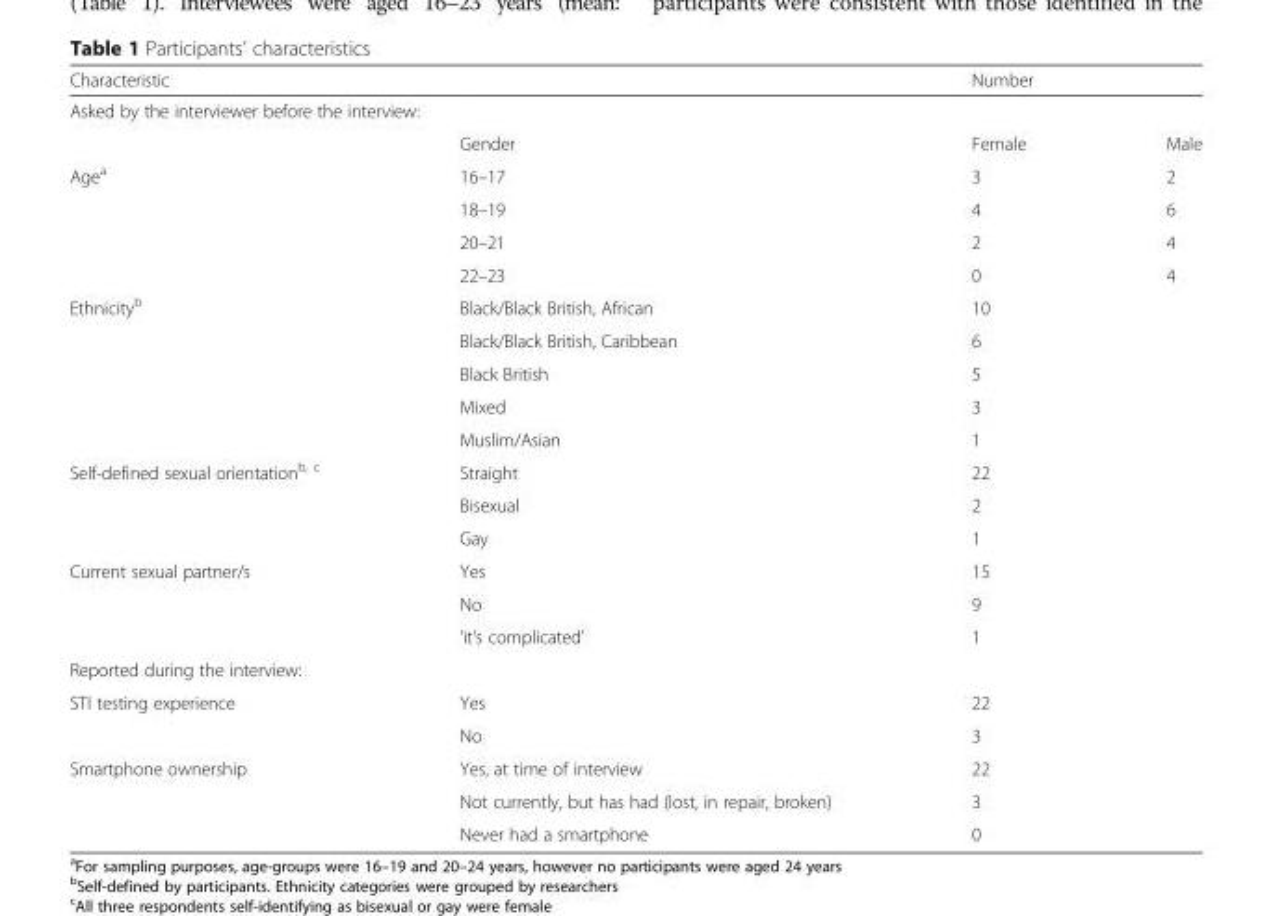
<table><thead><tr><td>Characteristic</td><td></td><td colspan="2">Number</td></tr><tr><td colspan="4">Asked by the interviewer before the interview:</td></tr><tr><td></td><td>Gender</td><td>Female</td><td>Male</td></tr></thead><tbody><tr><td rowspan="4">Age<sup>a</sup></td><td>16–17</td><td>3</td><td>2</td></tr><tr><td>18–19</td><td>4</td><td>6</td></tr><tr><td>20–21</td><td>2</td><td>4</td></tr><tr><td>22–23</td><td>0</td><td>4</td></tr><tr><td rowspan="5">Ethnicity<sup>b</sup></td><td>Black/Black British, African</td><td colspan="2">10</td></tr><tr><td>Black/Black British, Caribbean</td><td colspan="2">6</td></tr><tr><td>Black British</td><td colspan="2">5</td></tr><tr><td>Mixed</td><td colspan="2">3</td></tr><tr><td>Muslim/Asian</td><td colspan="2">1</td></tr><tr><td rowspan="3">Self-defined sexual orientation<sup>b, c</sup></td><td>Straight</td><td colspan="2">22</td></tr><tr><td>Bisexual</td><td colspan="2">2</td></tr><tr><td>Gay</td><td colspan="2">1</td></tr><tr><td rowspan="3">Current sexual partner/s</td><td>Yes</td><td colspan="2">15</td></tr><tr><td>No</td><td colspan="2">9</td></tr><tr><td>‘it’s complicated’</td><td colspan="2">1</td></tr><tr><td colspan="4">Reported during the interview:</td></tr><tr><td rowspan="2">STI testing experience</td><td>Yes</td><td colspan="2">22</td></tr><tr><td>No</td><td colspan="2">3</td></tr><tr><td rowspan="3">Smartphone ownership</td><td>Yes, at time of interview</td><td colspan="2">22</td></tr><tr><td>Not currently, but has had (lost, in repair, broken)</td><td colspan="2">3</td></tr><tr><td>Never had a smartphone</td><td colspan="2">0</td></tr></tbody></table>